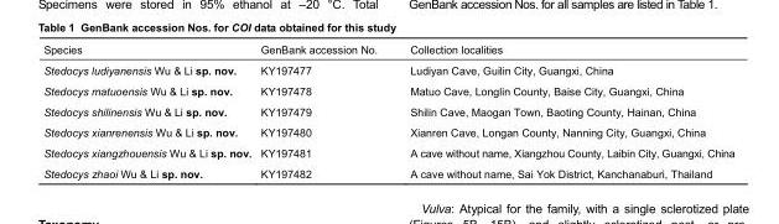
<table><thead><tr><td>Species</td><td>GenBank accession No.</td><td>Collection localities</td></tr></thead><tbody><tr><td>Stedocys ludiyanensis Wu &amp; Li sp. nov.</td><td>KY197477</td><td>Ludiyan Cave, Guilin City, Guangxi, China</td></tr><tr><td>Stedocys matuoensis Wu &amp; Li sp. nov.</td><td>KY197478</td><td>Matuo Cave, Longlin County, Baise City, Guangxi, China</td></tr><tr><td>Stedocys shilinensis Wu &amp; Li sp. nov.</td><td>KY197479</td><td>Shilin Cave, Maogan Town, Baoting County, Hainan, China</td></tr><tr><td>Stedocys xianrenensis Wu &amp; Li sp. nov.</td><td>KY197480</td><td>Xianren Cave, Longan County, Nanning City, Guangxi, China</td></tr><tr><td>Stedocys xiangzhouensis Wu &amp; Li sp. nov.</td><td>KY197481</td><td>A cave without name, Xiangzhou County, Laibin City, Guangxi, China</td></tr><tr><td>Stedocys zhaoi Wu &amp; Li sp. nov.</td><td>KY197482</td><td>A cave without name, Sai Yok District, Kanchanaburi, Thailand</td></tr></tbody></table>